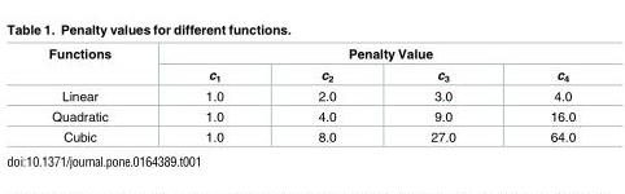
<table><thead><tr><td rowspan="2">Functions</td><td colspan="4">Penalty Value</td></tr><tr><td>c<sub>1</sub></td><td>c<sub>2</sub></td><td>c<sub>3</sub></td><td>c<sub>4</sub></td></tr></thead><tbody><tr><td>Linear</td><td>1.0</td><td>2.0</td><td>3.0</td><td>4.0</td></tr><tr><td>Quadratic</td><td>1.0</td><td>4.0</td><td>9.0</td><td>16.0</td></tr><tr><td>Cubic</td><td>1.0</td><td>8.0</td><td>27.0</td><td>64.0</td></tr></tbody></table>